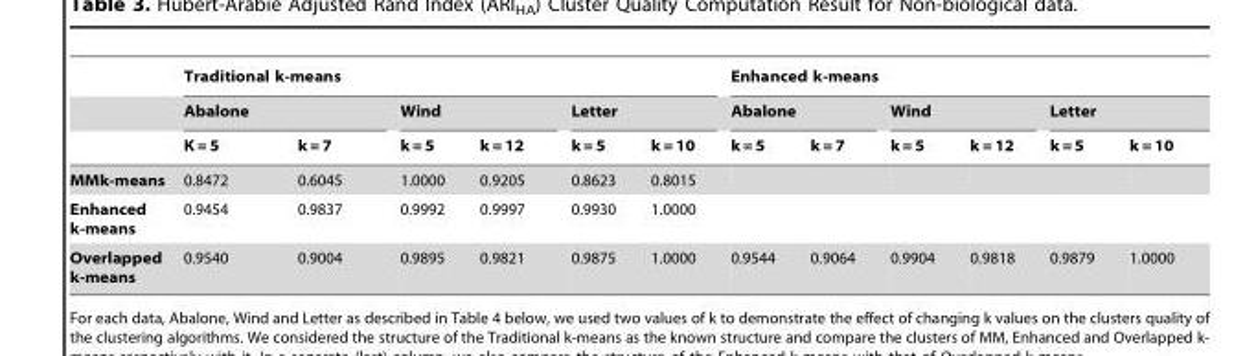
<table><thead><tr><td rowspan="3"></td><td colspan="6">Traditional k-means</td><td colspan="6">Enhanced k-means</td></tr><tr><td colspan="2">Abalone</td><td colspan="2">Wind</td><td colspan="2">Letter</td><td colspan="2">Abalone</td><td colspan="2">Wind</td><td colspan="2">Letter</td></tr><tr><td>K = 5</td><td>k = 7</td><td>k = 5</td><td>k = 12</td><td>k = 5</td><td>k = 10</td><td>k = 5</td><td>k = 7</td><td>k = 5</td><td>k = 12</td><td>k = 5</td><td>k = 10</td></tr></thead><tbody><tr><td>MMk-means</td><td>0.8472</td><td>0.6045</td><td>1.0000</td><td>0.9205</td><td>0.8623</td><td>0.8015</td><td></td><td></td><td></td><td></td><td></td><td></td></tr><tr><td>Enhanced k-means</td><td>0.9454</td><td>0.9837</td><td>0.9992</td><td>0.9997</td><td>0.9930</td><td>1.0000</td><td></td><td></td><td></td><td></td><td></td><td></td></tr><tr><td>Overlapped k-means</td><td>0.9540</td><td>0.9004</td><td>0.9895</td><td>0.9821</td><td>0.9875</td><td>1.0000</td><td>0.9544</td><td>0.9064</td><td>0.9904</td><td>0.9818</td><td>0.9879</td><td>1.0000</td></tr></tbody></table>